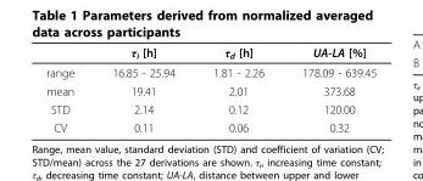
<table><thead><tr><td></td><td>τ<sub>i</sub> [h]</td><td>τ<sub>d</sub> [h]</td><td>UA-LA [%]</td></tr></thead><tbody><tr><td>range</td><td>16.85 - 25.94</td><td>1.81 - 2.26</td><td>178.09 - 639.45</td></tr><tr><td>mean</td><td>19.41</td><td>2.01</td><td>373.68</td></tr><tr><td>STD</td><td>2.14</td><td>0.12</td><td>120.00</td></tr><tr><td>CV</td><td>0.11</td><td>0.06</td><td>0.32</td></tr></tbody></table>